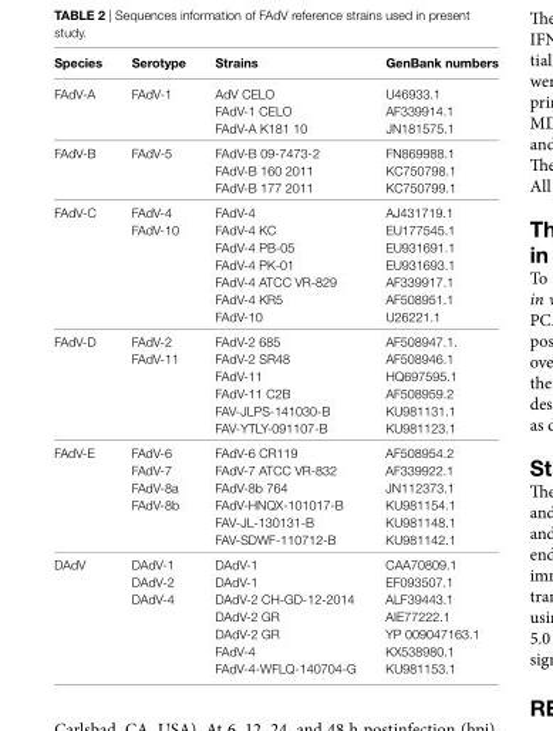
<table><thead><tr><td>species</td><td>serotype</td><td>strains</td><td>genBank numbers</td></tr></thead><tbody><tr><td rowspan="3">FAdV-A</td><td rowspan="3">FAdV-1</td><td>AdV CELO</td><td>U46933.1</td></tr><tr><td>FAdV-1 CELO</td><td>AF339914.1</td></tr><tr><td>FAdV-A K181 10</td><td>JN181575.1</td></tr><tr><td rowspan="3">FAdV-B</td><td rowspan="3">FAdV-5</td><td>FAdV-B 09-7473-2</td><td>FN869988.1</td></tr><tr><td>FAdV-B 160 2011</td><td>KC750798.1</td></tr><tr><td>FAdV-B 177 2011</td><td>KC750799.1</td></tr><tr><td rowspan="7">FAdV-C</td><td>FAdV-4</td><td>FAdV-4</td><td>AJ431719.1</td></tr><tr><td rowspan="6">FAdV-10</td><td>FAdV-4 KC</td><td>EU177545.1</td></tr><tr><td>FAdV-4 PB-05</td><td>EU931691.1</td></tr><tr><td>FAdV-4 PK-01</td><td>EU931693.1</td></tr><tr><td>FAdV-4 ATCC VR-829</td><td>AF339917.1</td></tr><tr><td>FAdV-4 KR5</td><td>AF508951.1</td></tr><tr><td>FAdV-10</td><td>U26221.1</td></tr><tr><td rowspan="6">FAdV-D</td><td>FAdV-2</td><td>FAdV-2 685</td><td>AF508947.1.</td></tr><tr><td rowspan="5">FAdV-11</td><td>FAdV-2 SR48</td><td>AF508946.1</td></tr><tr><td>FAdV-11</td><td>HQ697595.1</td></tr><tr><td>FAdV-11 C2B</td><td>AF508959.2</td></tr><tr><td>FAV-JLPS-141030-B</td><td>KU981131.1</td></tr><tr><td>FAV-YTLY-091107-B</td><td>KU981123.1</td></tr><tr><td rowspan="6">FAdV-E</td><td>FAdV-6</td><td>FAdV-6 CR119</td><td>AF508954.2</td></tr><tr><td>FAdV-7</td><td>FAdV-7 ATCC VR-832</td><td>AF339922.1</td></tr><tr><td>FAdV-8a</td><td>FAdV-8b 764</td><td>JN112373.1</td></tr><tr><td rowspan="3">FAdV-8b</td><td>FAdV-HNQX-101017-B</td><td>KU981154.1</td></tr><tr><td>FAV-JL-130131-B</td><td>KU981148.1</td></tr><tr><td>FAV-SDWF-110712-B</td><td>KU981142.1</td></tr><tr><td rowspan="7">DAdV</td><td>DAdV-1</td><td>DAdV-1</td><td>CAA70809.1</td></tr><tr><td>DAdV-2</td><td>DAdV-1</td><td>EF093507.1</td></tr><tr><td rowspan="5">DAdV-4</td><td>DAdV-2 CH-GD-12-2014</td><td>ALF39443.1</td></tr><tr><td>DAdV-2 GR</td><td>AIE77222.1</td></tr><tr><td>DAdV-2 GR</td><td>YP 009047163.1</td></tr><tr><td>FAdV-4</td><td>KX538980.1</td></tr><tr><td>FAdV-4-WFLQ-140704-G</td><td>KU981153.1</td></tr></tbody></table>